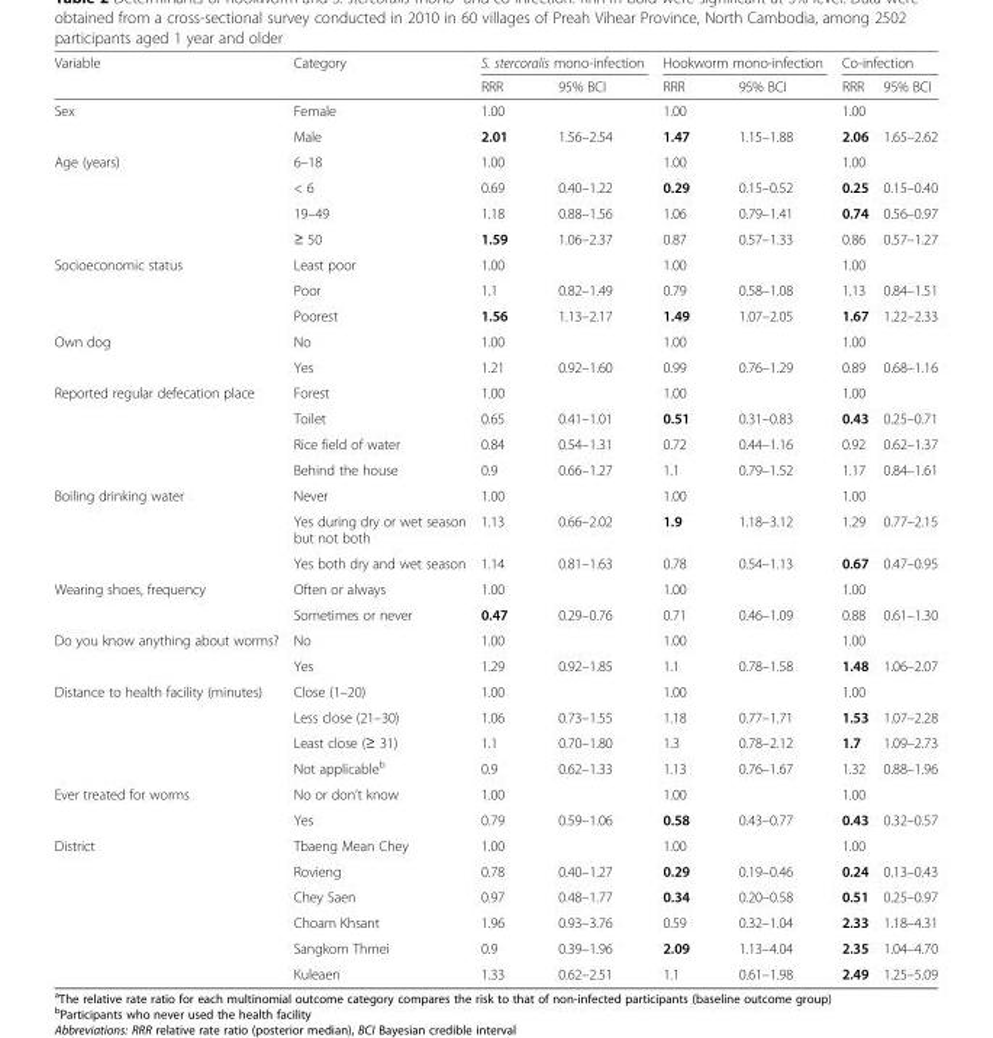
<table><thead><tr><td rowspan="2">Variable</td><td rowspan="2">Category</td><td colspan="2">S. stercoralis mono-infection</td><td colspan="2">Hookworm mono-infection</td><td colspan="2">Co-infection</td></tr><tr><td>RRR</td><td>95% BCI</td><td>RRR</td><td>95% BCI</td><td>RRR</td><td>95% BCI</td></tr></thead><tbody><tr><td rowspan="2">Sex</td><td>Female</td><td>1.00</td><td></td><td>1.00</td><td></td><td>1.00</td><td></td></tr><tr><td>Male</td><td>2.01</td><td>1.56–2.54</td><td>1.47</td><td>1.15–1.88</td><td>2.06</td><td>1.65–2.62</td></tr><tr><td rowspan="4">Age (years)</td><td>6–18</td><td>1.00</td><td></td><td>1.00</td><td></td><td>1.00</td><td></td></tr><tr><td>&lt; 6</td><td>0.69</td><td>0.40–1.22</td><td>0.29</td><td>0.15–0.52</td><td>0.25</td><td>0.15–0.40</td></tr><tr><td>19–49</td><td>1.18</td><td>0.88–1.56</td><td>1.06</td><td>0.79–1.41</td><td>0.74</td><td>0.56–0.97</td></tr><tr><td>≥ 50</td><td>1.59</td><td>1.06–2.37</td><td>0.87</td><td>0.57–1.33</td><td>0.86</td><td>0.57–1.27</td></tr><tr><td rowspan="3">Socioeconomic status</td><td>Least poor</td><td>1.00</td><td></td><td>1.00</td><td></td><td>1.00</td><td></td></tr><tr><td>Poor</td><td>1.1</td><td>0.82–1.49</td><td>0.79</td><td>0.58–1.08</td><td>1.13</td><td>0.84–1.51</td></tr><tr><td>Poorest</td><td>1.56</td><td>1.13–2.17</td><td>1.49</td><td>1.07–2.05</td><td>1.67</td><td>1.22–2.33</td></tr><tr><td rowspan="2">Own dog</td><td>No</td><td>1.00</td><td></td><td>1.00</td><td></td><td>1.00</td><td></td></tr><tr><td>Yes</td><td>1.21</td><td>0.92–1.60</td><td>0.99</td><td>0.76–1.29</td><td>0.89</td><td>0.68–1.16</td></tr><tr><td rowspan="4">Reported regular defecation place</td><td>Forest</td><td>1.00</td><td></td><td>1.00</td><td></td><td>1.00</td><td></td></tr><tr><td>Toilet</td><td>0.65</td><td>0.41–1.01</td><td>0.51</td><td>0.31–0.83</td><td>0.43</td><td>0.25–0.71</td></tr><tr><td>Rice field of water</td><td>0.84</td><td>0.54–1.31</td><td>0.72</td><td>0.44–1.16</td><td>0.92</td><td>0.62–1.37</td></tr><tr><td>Behind the house</td><td>0.9</td><td>0.66–1.27</td><td>1.1</td><td>0.79–1.52</td><td>1.17</td><td>0.84–1.61</td></tr><tr><td rowspan="3">Boiling drinking water</td><td>Never</td><td>1.00</td><td></td><td>1.00</td><td></td><td>1.00</td><td></td></tr><tr><td>Yes during dry or wet season but not both</td><td>1.13</td><td>0.66–2.02</td><td>1.9</td><td>1.18–3.12</td><td>1.29</td><td>0.77–2.15</td></tr><tr><td>Yes both dry and wet season</td><td>1.14</td><td>0.81–1.63</td><td>0.78</td><td>0.54–1.13</td><td>0.67</td><td>0.47–0.95</td></tr><tr><td rowspan="2">Wearing shoes, frequency</td><td>Often or always</td><td>1.00</td><td></td><td>1.00</td><td></td><td>1.00</td><td></td></tr><tr><td>Sometimes or never</td><td>0.47</td><td>0.29–0.76</td><td>0.71</td><td>0.46–1.09</td><td>0.88</td><td>0.61–1.30</td></tr><tr><td rowspan="2">Do you know anything about worms?</td><td>No</td><td>1.00</td><td></td><td>1.00</td><td></td><td>1.00</td><td></td></tr><tr><td>Yes</td><td>1.29</td><td>0.92–1.85</td><td>1.1</td><td>0.78–1.58</td><td>1.48</td><td>1.06–2.07</td></tr><tr><td rowspan="4">Distance to health facility (minutes)</td><td>Close (1–20)</td><td>1.00</td><td></td><td>1.00</td><td></td><td>1.00</td><td></td></tr><tr><td>Less close (21–30)</td><td>1.06</td><td>0.73–1.55</td><td>1.18</td><td>0.77–1.71</td><td>1.53</td><td>1.07–2.28</td></tr><tr><td>Least close (≥ 31)</td><td>1.1</td><td>0.70–1.80</td><td>1.3</td><td>0.78–2.12</td><td>1.7</td><td>1.09–2.73</td></tr><tr><td>Not applicable<sup>b</sup></td><td>0.9</td><td>0.62–1.33</td><td>1.13</td><td>0.76–1.67</td><td>1.32</td><td>0.88–1.96</td></tr><tr><td rowspan="2">Ever treated for worms</td><td>No or don’t know</td><td>1.00</td><td></td><td>1.00</td><td></td><td>1.00</td><td></td></tr><tr><td>Yes</td><td>0.79</td><td>0.59–1.06</td><td>0.58</td><td>0.43–0.77</td><td>0.43</td><td>0.32–0.57</td></tr><tr><td rowspan="6">District</td><td>Tbaeng Mean Chey</td><td>1.00</td><td></td><td>1.00</td><td></td><td>1.00</td><td></td></tr><tr><td>Rovieng</td><td>0.78</td><td>0.40–1.27</td><td>0.29</td><td>0.19–0.46</td><td>0.24</td><td>0.13–0.43</td></tr><tr><td>Chey Saen</td><td>0.97</td><td>0.48–1.77</td><td>0.34</td><td>0.20–0.58</td><td>0.51</td><td>0.25–0.97</td></tr><tr><td>Choam Khsant</td><td>1.96</td><td>0.93–3.76</td><td>0.59</td><td>0.32–1.04</td><td>2.33</td><td>1.18–4.31</td></tr><tr><td>Sangkom Thmei</td><td>0.9</td><td>0.39–1.96</td><td>2.09</td><td>1.13–4.04</td><td>2.35</td><td>1.04–4.70</td></tr><tr><td>Kuleaen</td><td>1.33</td><td>0.62–2.51</td><td>1.1</td><td>0.61–1.98</td><td>2.49</td><td>1.25–5.09</td></tr></tbody></table>